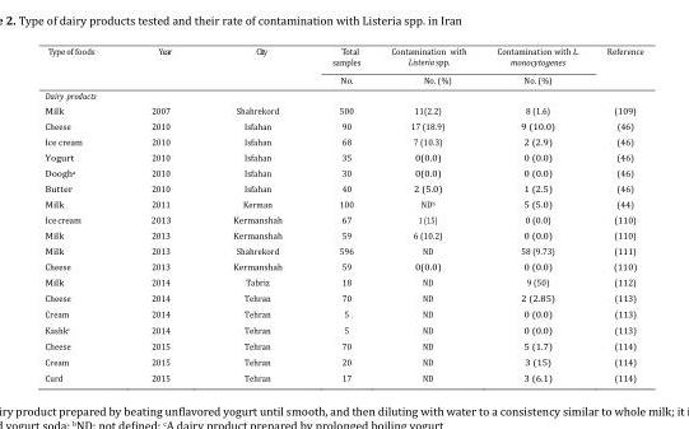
<table><thead><tr><td rowspan="2">Type of foods</td><td rowspan="2">Year</td><td rowspan="2">City</td><td rowspan="2">Total samples No.</td><td rowspan="2">Contamination with Listeria spp. No. (%)</td><td rowspan="2">Contamination with L. monocytogenes No. (%)</td><td rowspan="2">Reference</td></tr><tr></tr></thead><tbody><tr><td colspan="7">Dairy products</td></tr><tr><td>Milk</td><td>2007</td><td>Shahrekord</td><td>500</td><td>11(2.2)</td><td>8 (1.6)</td><td>(109)</td></tr><tr><td>Cheese</td><td>2010</td><td>Isfahan</td><td>90</td><td>17 (18.9)</td><td>9 (10.0)</td><td>(46)</td></tr><tr><td>Ice cream</td><td>2010</td><td>Isfahan</td><td>68</td><td>7 (10.3)</td><td>2 (2.9)</td><td>(46)</td></tr><tr><td>Yogurt</td><td>2010</td><td>Isfahan</td><td>35</td><td>0(0.0)</td><td>0 (0.0)</td><td>(46)</td></tr><tr><td>Doogh<sup>a</sup></td><td>2010</td><td>Isfahan</td><td>30</td><td>0(0.0)</td><td>0 (0.0)</td><td>(46)</td></tr><tr><td>Butter</td><td>2010</td><td>Isfahan</td><td>40</td><td>2 (5.0)</td><td>1 (2.5)</td><td>(46)</td></tr><tr><td>Milk</td><td>2011</td><td>Kerman</td><td>100</td><td>ND<sup>b</sup></td><td>5 (5.0)</td><td>(44)</td></tr><tr><td>Ice cream</td><td>2013</td><td>Kermanshah</td><td>67</td><td>1 (1.5)</td><td>0 (0.0)</td><td>(110)</td></tr><tr><td>Milk</td><td>2013</td><td>Kermanshah</td><td>59</td><td>6 (10.2)</td><td>0 (0.0)</td><td>(110)</td></tr><tr><td>Milk</td><td>2013</td><td>Shahrekord</td><td>596</td><td>ND</td><td>58 (9.73)</td><td>(111)</td></tr><tr><td>Cheese</td><td>2013</td><td>Kermanshah</td><td>59</td><td>0(0.0)</td><td>0 (0.0)</td><td>(110)</td></tr><tr><td>Milk</td><td>2014</td><td>Tabriz</td><td>18</td><td>ND</td><td>9 (50)</td><td>(112)</td></tr><tr><td>Cheese</td><td>2014</td><td>Tehran</td><td>70</td><td>ND</td><td>2 (2.85)</td><td>(113)</td></tr><tr><td>Cream</td><td>2014</td><td>Tehran</td><td>5</td><td>ND</td><td>0 (0.0)</td><td>(113)</td></tr><tr><td>Kashk<sup>c</sup></td><td>2014</td><td>Tehran</td><td>5</td><td>ND</td><td>0 (0.0)</td><td>(113)</td></tr><tr><td>Cheese</td><td>2015</td><td>Tehran</td><td>70</td><td>ND</td><td>5 (1.7)</td><td>(114)</td></tr><tr><td>Cream</td><td>2015</td><td>Tehran</td><td>20</td><td>ND</td><td>3 (15)</td><td>(114)</td></tr><tr><td>Curd</td><td>2015</td><td>Tehran</td><td>17</td><td>ND</td><td>3 (6.1)</td><td>(114)</td></tr></tbody></table>